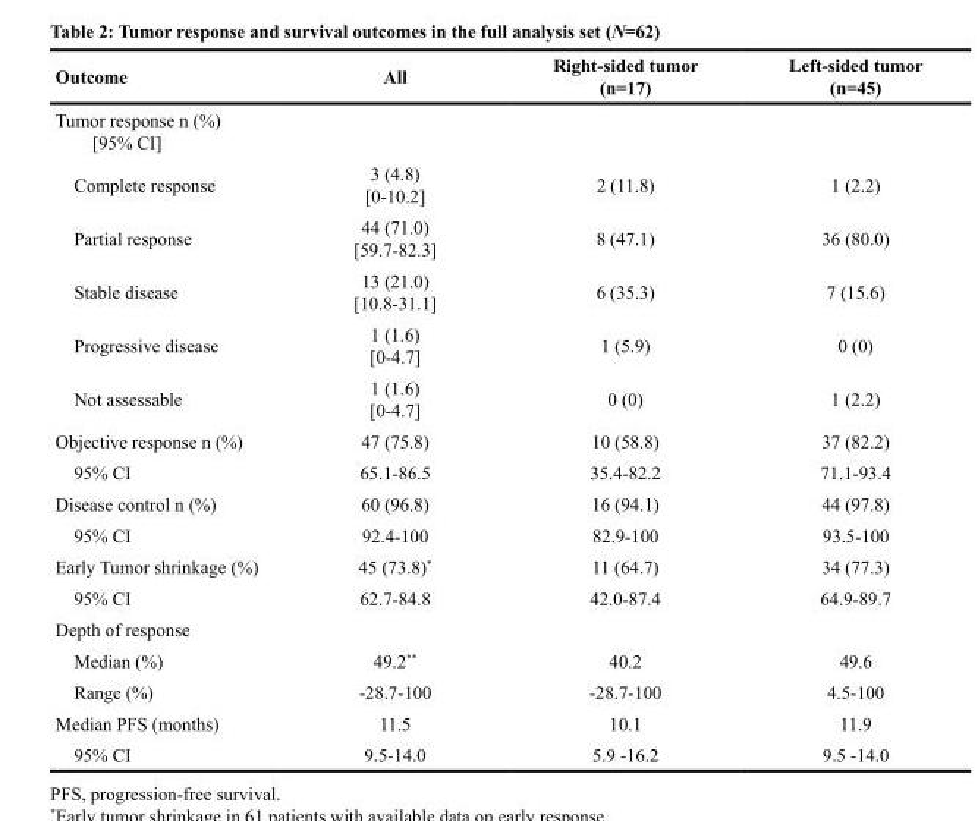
<table><thead><tr><td>Outcome</td><td>All</td><td>Right-sided tumor (n=17)</td><td>Left-sided tumor (n=45)</td></tr></thead><tbody><tr><td colspan="4">Tumor response n (%) [95% CI]</td></tr><tr><td>Complete response</td><td>3 (4.8) [0-10.2]</td><td>2 (11.8)</td><td>1 (2.2)</td></tr><tr><td>Partial response</td><td>44 (71.0) [59.7-82.3]</td><td>8 (47.1)</td><td>36 (80.0)</td></tr><tr><td>Stable disease</td><td>13 (21.0) [10.8-31.1]</td><td>6 (35.3)</td><td>7 (15.6)</td></tr><tr><td>Progressive disease</td><td>1 (1.6) [0-4.7]</td><td>1 (5.9)</td><td>0 (0)</td></tr><tr><td>Not assessable</td><td>1 (1.6) [0-4.7]</td><td>0 (0)</td><td>1 (2.2)</td></tr><tr><td>Objective response n (%)</td><td>47 (75.8)</td><td>10 (58.8)</td><td>37 (82.2)</td></tr><tr><td>95% CI</td><td>65.1-86.5</td><td>35.4-82.2</td><td>71.1-93.4</td></tr><tr><td>Disease control n (%)</td><td>60 (96.8)</td><td>16 (94.1)</td><td>44 (97.8)</td></tr><tr><td>95% CI</td><td>92.4-100</td><td>82.9-100</td><td>93.5-100</td></tr><tr><td>Early Tumor shrinkage (%)</td><td>45 (73.8)*</td><td>11 (64.7)</td><td>34 (77.3)</td></tr><tr><td>95% CI</td><td>62.7-84.8</td><td>42.0-87.4</td><td>64.9-89.7</td></tr><tr><td colspan="4">Depth of response</td></tr><tr><td>Median (%)</td><td>49.2**</td><td>40.2</td><td>49.6</td></tr><tr><td>Range (%)</td><td>-28.7-100</td><td>-28.7-100</td><td>4.5-100</td></tr><tr><td>Median PFS (months)</td><td>11.5</td><td>10.1</td><td>11.9</td></tr><tr><td>95% CI</td><td>9.5-14.0</td><td>5.9 -16.2</td><td>9.5 -14.0</td></tr></tbody></table>